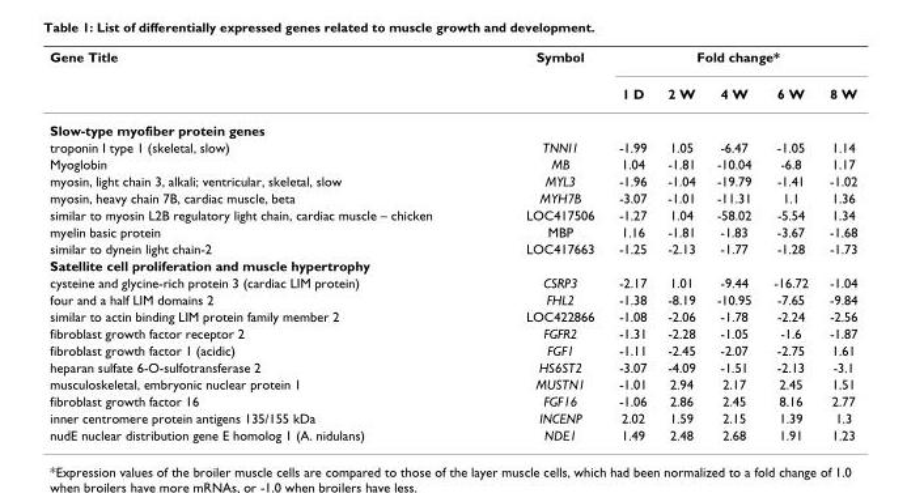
<table><thead><tr><td rowspan="2">Gene Title</td><td rowspan="2">Symbol</td><td colspan="5">Fold change*</td></tr><tr><td>1 D</td><td>2 W</td><td>4 W</td><td>6 W</td><td>8 W</td></tr></thead><tbody><tr><td colspan="7">Slow-type myofiber protein genes</td></tr><tr><td>troponin I type 1 (skeletal, slow)</td><td>TNNI1</td><td>-1.99</td><td>1.05</td><td>-6.47</td><td>-1.05</td><td>1.14</td></tr><tr><td>Myoglobin</td><td>MB</td><td>1.04</td><td>-1.81</td><td>-10.04</td><td>-6.8</td><td>1.17</td></tr><tr><td>myosin, light chain 3, alkali; ventricular, skeletal, slow</td><td>MYL3</td><td>-1.96</td><td>-1.04</td><td>-19.79</td><td>-1.41</td><td>-1.02</td></tr><tr><td>myosin, heavy chain 7B, cardiac muscle, beta</td><td>MYH7B</td><td>-3.07</td><td>-1.01</td><td>-11.31</td><td>1.1</td><td>1.36</td></tr><tr><td>similar to myosin L2B regulatory light chain, cardiac muscle – chicken</td><td>LOC417506</td><td>-1.27</td><td>1.04</td><td>-58.02</td><td>-5.54</td><td>1.34</td></tr><tr><td>myelin basic protein</td><td>MBP</td><td>1.16</td><td>-1.81</td><td>-1.83</td><td>-3.67</td><td>-1.68</td></tr><tr><td>similar to dynein light chain-2</td><td>LOC417663</td><td>-1.25</td><td>-2.13</td><td>-1.77</td><td>-1.28</td><td>-1.73</td></tr><tr><td colspan="7">Satellite cell proliferation and muscle hypertrophy</td></tr><tr><td>cysteine and glycine-rich protein 3 (cardiac LIM protein)</td><td>CSRP3</td><td>-2.17</td><td>1.01</td><td>-9.44</td><td>-16.72</td><td>-1.04</td></tr><tr><td>four and a half LIM domains 2</td><td>FHL2</td><td>-1.38</td><td>-8.19</td><td>-10.95</td><td>-7.65</td><td>-9.84</td></tr><tr><td>similar to actin binding LIM protein family member 2</td><td>LOC422866</td><td>-1.08</td><td>-2.06</td><td>-1.78</td><td>-2.24</td><td>-2.56</td></tr><tr><td>fibroblast growth factor receptor 2</td><td>FGFR2</td><td>-1.31</td><td>-2.28</td><td>-1.05</td><td>-1.6</td><td>-1.87</td></tr><tr><td>fibroblast growth factor 1 (acidic)</td><td>FGF1</td><td>-1.11</td><td>-2.45</td><td>-2.07</td><td>-2.75</td><td>1.61</td></tr><tr><td>heparan sulfate 6-O-sulfotransferase 2</td><td>HS6ST2</td><td>-3.07</td><td>-4.09</td><td>-1.51</td><td>-2.13</td><td>-3.1</td></tr><tr><td>musculoskeletal, embryonic nuclear protein 1</td><td>MUSTN1</td><td>-1.01</td><td>2.94</td><td>2.17</td><td>2.45</td><td>1.51</td></tr><tr><td>fibroblast growth factor 16</td><td>FGF16</td><td>-1.06</td><td>2.86</td><td>2.45</td><td>8.16</td><td>2.77</td></tr><tr><td>inner centromere protein antigens 135/155 kDa</td><td>INCENP</td><td>2.02</td><td>1.59</td><td>2.15</td><td>1.39</td><td>1.3</td></tr><tr><td>nudE nuclear distribution gene E homolog 1 (A. nidulans)</td><td>NDE1</td><td>1.49</td><td>2.48</td><td>2.68</td><td>1.91</td><td>1.23</td></tr></tbody></table>